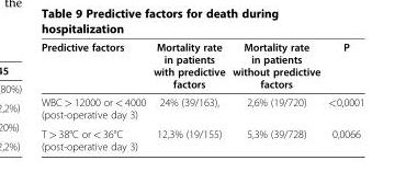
<table><thead><tr><td>Predictive factors</td><td>Mortality rate in patients with predictive factors</td><td>Mortality rate in patients without predictive factors</td><td>P</td></tr></thead><tbody><tr><td>WBC &gt; 12000 or &lt; 4000 (post-operative day 3)</td><td>24% (39/163),</td><td>2,6% (19/720)</td><td>&lt;0,0001</td></tr><tr><td>T &gt; 38°C or &lt; 36°C (post-operative day 3)</td><td>12,3% (19/155)</td><td>5,3% (39/728)</td><td>0,0066</td></tr></tbody></table>